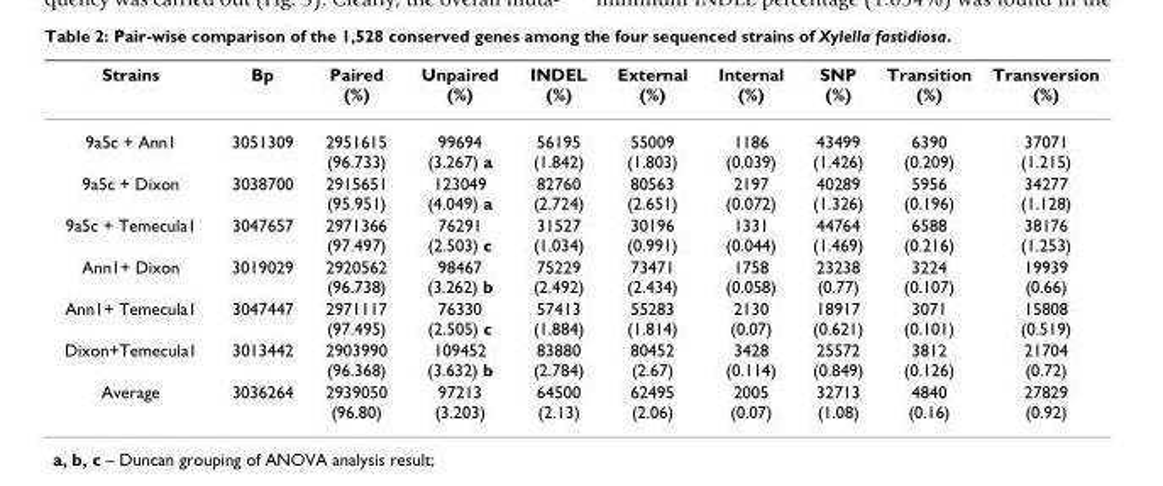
<table><thead><tr><td>Strains</td><td>Bp</td><td>Paired (%)</td><td>Unpaired (%)</td><td>INDEL (%)</td><td>External (%)</td><td>Internal (%)</td><td>SNP (%)</td><td>Transition (%)</td><td>Transversion (%)</td></tr></thead><tbody><tr><td>9a5c + Ann1</td><td>3051309</td><td>2951615 (96.733)</td><td>99694 (3.267) a</td><td>56195 (1.842)</td><td>55009 (1.803)</td><td>1186 (0.039)</td><td>43499 (1.426)</td><td>6390 (0.209)</td><td>37071 (1.215)</td></tr><tr><td>9a5c + Dixon</td><td>3038700</td><td>2915651 (95.951)</td><td>123049 (4.049) a</td><td>82760 (2.724)</td><td>80563 (2.651)</td><td>2197 (0.072)</td><td>40289 (1.326)</td><td>5956 (0.196)</td><td>34277 (1.128)</td></tr><tr><td>9a5c + Temecula1</td><td>3047657</td><td>2971366 (97.497)</td><td>76291 (2.503) c</td><td>31527 (1.034)</td><td>30196 (0.991)</td><td>1331 (0.044)</td><td>44764 (1.469)</td><td>6588 (0.216)</td><td>38176 (1.253)</td></tr><tr><td>Ann1+ Dixon</td><td>3019029</td><td>2920562 (96.738)</td><td>98467 (3.262) b</td><td>75229 (2.492)</td><td>73471 (2.434)</td><td>1758 (0.058)</td><td>23238 (0.77)</td><td>3224 (0.107)</td><td>19939 (0.66)</td></tr><tr><td>Ann1+ Temecula1</td><td>3047447</td><td>2971117 (97.495)</td><td>76330 (2.505) c</td><td>57413 (1.884)</td><td>55283 (1.814)</td><td>2130 (0.07)</td><td>18917 (0.621)</td><td>3071 (0.101)</td><td>15808 (0.519)</td></tr><tr><td>Dixon+Temecula1</td><td>3013442</td><td>2903990 (96.368)</td><td>109452 (3.632) b</td><td>83880 (2.784)</td><td>80452 (2.67)</td><td>3428 (0.114)</td><td>25572 (0.849)</td><td>3812 (0.126)</td><td>21704 (0.72)</td></tr><tr><td>Average</td><td>3036264</td><td>2939050 (96.80)</td><td>97213 (3.203)</td><td>64500 (2.13)</td><td>62495 (2.06)</td><td>2005 (0.07)</td><td>32713 (1.08)</td><td>4840 (0.16)</td><td>27829 (0.92)</td></tr></tbody></table>